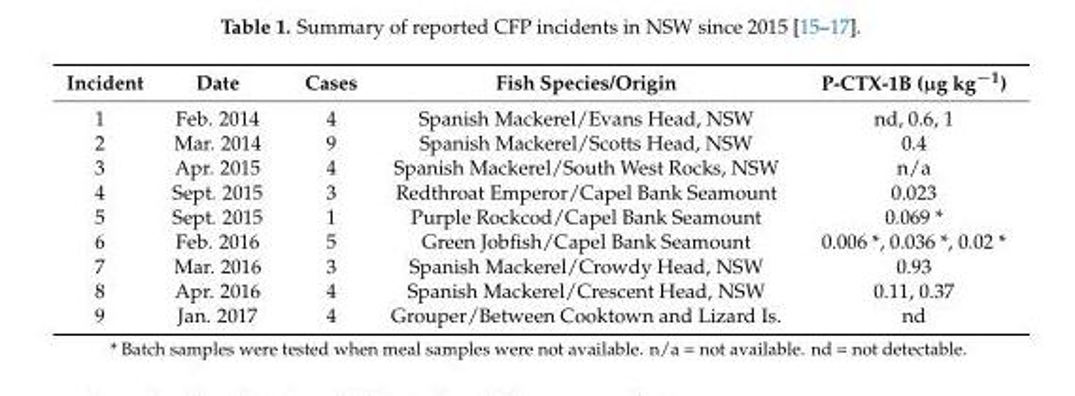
<table><thead><tr><td>Incident</td><td>Date</td><td>Cases</td><td>Fish Species/Origin</td><td>P-CTX-1B (µg kg<sup>−1</sup>)</td></tr></thead><tbody><tr><td>1</td><td>Feb. 2014</td><td>4</td><td>Spanish Mackerel/Evans Head, NSW</td><td>nd, 0.6, 1</td></tr><tr><td>2</td><td>Mar. 2014</td><td>9</td><td>Spanish Mackerel/Scotts Head, NSW</td><td>0.4</td></tr><tr><td>3</td><td>Apr. 2015</td><td>4</td><td>Spanish Mackerel/South West Rocks, NSW</td><td>n/a</td></tr><tr><td>4</td><td>Sept. 2015</td><td>3</td><td>Redthroat Emperor/Capel Bank Seamount</td><td>0.023</td></tr><tr><td>5</td><td>Sept. 2015</td><td>1</td><td>Purple Rockcod/Capel Bank Seamount</td><td>0.069 *</td></tr><tr><td>6</td><td>Feb. 2016</td><td>5</td><td>Green Jobfish/Capel Bank Seamount</td><td>0.006 *, 0.036 *, 0.02 *</td></tr><tr><td>7</td><td>Mar. 2016</td><td>3</td><td>Spanish Mackerel/Crowdy Head, NSW</td><td>0.93</td></tr><tr><td>8</td><td>Apr. 2016</td><td>4</td><td>Spanish Mackerel/Crescent Head, NSW</td><td>0.11, 0.37</td></tr><tr><td>9</td><td>Jan. 2017</td><td>4</td><td>Grouper/Between Cooktown and Lizard Is.</td><td>nd</td></tr></tbody></table>